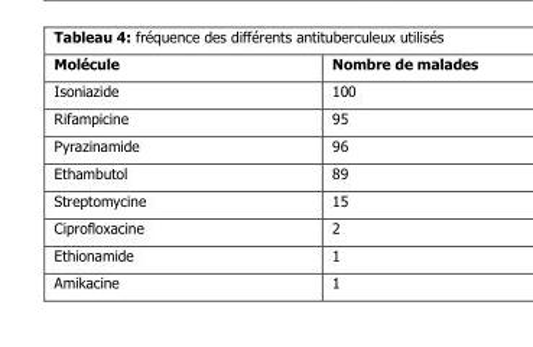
<table><thead><tr><td>Molécule</td><td>Nombre de malades</td></tr></thead><tbody><tr><td>Isoniazide</td><td>100</td></tr><tr><td>Rifampicine</td><td>95</td></tr><tr><td>Pyrazinamide</td><td>96</td></tr><tr><td>Ethambutol</td><td>89</td></tr><tr><td>Streptomycine</td><td>15</td></tr><tr><td>Ciprofloxacine</td><td>2</td></tr><tr><td>Ethionamide</td><td>1</td></tr><tr><td>Amikacine</td><td>1</td></tr></tbody></table>